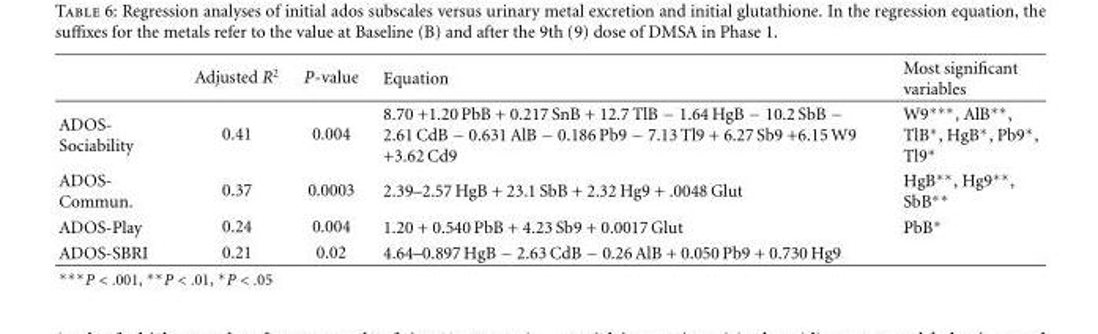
<table><thead><tr><td></td><td>Adjusted R<sup>2</sup></td><td>P-value</td><td>Equation</td><td>Most significant variables</td></tr></thead><tbody><tr><td>ADOS- Sociability</td><td>0.41</td><td>0.004</td><td>8.70 +1.20 PbB + 0.217 SnB + 12.7 TlB − 1.64 HgB − 10.2 SbB − 2.61 CdB − 0.631 AlB − 0.186 Pb9 − 7.13 Tl9 + 6.27 Sb9 +6.15 W9 +3.62 Cd9</td><td>W9∗∗∗, AlB∗∗, TlB∗, HgB∗, Pb9∗, Tl9∗</td></tr><tr><td>ADOS- Commun.</td><td>0.37</td><td>0.0003</td><td>2.39–2.57 HgB + 23.1 SbB + 2.32 Hg9 + .0048 Glut</td><td>HgB∗∗, Hg9∗∗, SbB∗∗</td></tr><tr><td>ADOS-Play</td><td>0.24</td><td>0.004</td><td>1.20 + 0.540 PbB + 4.23 Sb9 + 0.0017 Glut</td><td>PbB∗</td></tr><tr><td>ADOS-SBRI</td><td>0.21</td><td>0.02</td><td>4.64–0.897 HgB − 2.63 CdB − 0.26 AlB + 0.050 Pb9 + 0.730 Hg9</td><td></td></tr></tbody></table>